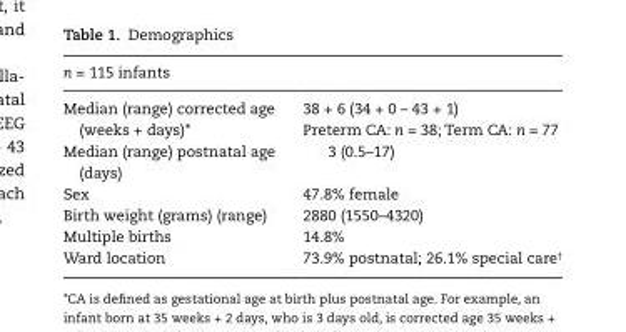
<table><thead><tr><td colspan="2">n = 115 infants</td></tr><tr><td>Median (range) corrected age (weeks + days)*</td><td>38 + 6 (34 + 0 – 43 + 1) Preterm CA: n = 38; Term CA: n = 77</td></tr></thead><tbody><tr><td>Median (range) postnatal age (days)</td><td>3 (0.5–17)</td></tr><tr><td>Sex</td><td>47.8% female</td></tr><tr><td>Birth weight (grams) (range)</td><td>2880 (1550–4320)</td></tr><tr><td>Multiple births</td><td>14.8%</td></tr><tr><td>Ward location</td><td>73.9% postnatal; 26.1% special care<sup>†</sup></td></tr></tbody></table>